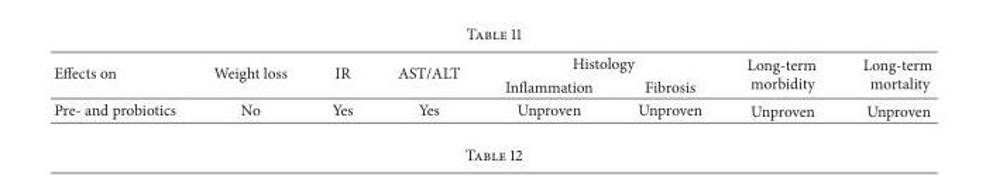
<table><thead><tr><td rowspan="2">Effects on</td><td rowspan="2">Weight loss</td><td rowspan="2">IR</td><td rowspan="2">AST/ALT</td><td colspan="2">Histology</td><td rowspan="2">Long-term morbidity</td><td rowspan="2">Long-term mortality</td></tr><tr><td>Inflammation</td><td>Fibrosis</td></tr></thead><tbody><tr><td>Pre- and probiotics</td><td>No</td><td>Yes</td><td>Yes</td><td>Unproven</td><td>Unproven</td><td>Unproven</td><td>Unproven</td></tr></tbody></table>